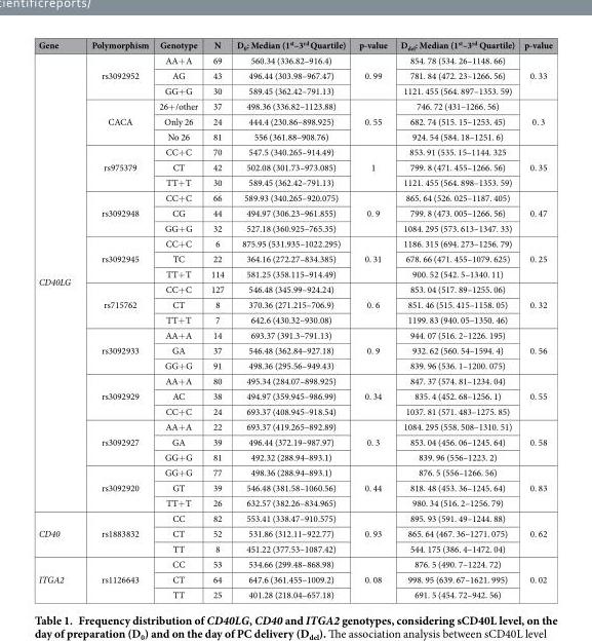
<table><thead><tr><td>Gene</td><td>Polymorphism</td><td>Genotype</td><td>N</td><td>D<sub>0</sub>: Median (1<sup>st</sup>–3<sup>rd</sup> Quartile)</td><td>p-value</td><td>D<sub>del</sub>: Median (1<sup>st</sup>–3<sup>rd</sup> Quartile)</td><td>p-value</td></tr></thead><tbody><tr><td rowspan="30">CD40LG</td><td rowspan="3">rs3092952</td><td>AA+ A</td><td>69</td><td>560.34 (336.82–916.4)</td><td rowspan="3">0. 99</td><td>854. 78 (534. 26–1148. 66)</td><td rowspan="3">0. 33</td></tr><tr><td>AG</td><td>43</td><td>496.44 (303.98–967.47)</td><td>781. 84 (472. 23–1266. 56)</td></tr><tr><td>GG+ G</td><td>30</td><td>589.45 (362.42–791.13)</td><td>1121. 455 (564. 897–1353. 59)</td></tr><tr><td rowspan="3">CACA</td><td>26+ /other</td><td>37</td><td>498.36 (336.82–1123.88)</td><td rowspan="3">0. 55</td><td>746. 72 (431–1266. 56)</td><td rowspan="3">0. 3</td></tr><tr><td>Only 26</td><td>24</td><td>444.4 (230.86–898.925)</td><td>682. 74 (515. 15–1253. 45)</td></tr><tr><td>No 26</td><td>81</td><td>556 (361.88–908.76)</td><td>924. 54 (584. 18–1251. 6)</td></tr><tr><td rowspan="3">rs975379</td><td>CC+ C</td><td>70</td><td>547.5 (340.265–914.49)</td><td rowspan="3">1</td><td>853. 91 (535. 15–1144. 325</td><td rowspan="3">0. 35</td></tr><tr><td>CT</td><td>42</td><td>502.08 (301.73–973.085)</td><td>799. 8 (471. 455–1266. 56)</td></tr><tr><td>TT+ T</td><td>30</td><td>589.45 (362.42–791.13)</td><td>1121. 455 (564. 898–1353. 59)</td></tr><tr><td rowspan="3">rs3092948</td><td>CC+ C</td><td>66</td><td>589.93 (340.265–920.075)</td><td rowspan="3">0. 9</td><td>865. 64 (526. 025–1187. 405)</td><td rowspan="3">0. 47</td></tr><tr><td>CG</td><td>44</td><td>494.97 (306.23–961.855)</td><td>799. 8 (473. 005–1266. 56)</td></tr><tr><td>GG+ G</td><td>32</td><td>527.18 (360.925–765.35)</td><td>1084. 295 (573. 613–1347. 33)</td></tr><tr><td rowspan="3">rs3092945</td><td>CC+ C</td><td>6</td><td>875.95 (531.935–1022.295)</td><td rowspan="3">0. 31</td><td>1186. 315 (694. 273–1256. 79)</td><td rowspan="3">0. 25</td></tr><tr><td>TC</td><td>22</td><td>364.16 (272.27–834.385)</td><td>678. 66 (471. 455–1079. 625)</td></tr><tr><td>TT+ T</td><td>114</td><td>581.25 (358.115–914.49)</td><td>900. 52 (542. 5–1340. 11)</td></tr><tr><td rowspan="3">rs715762</td><td>CC+ C</td><td>127</td><td>546.48 (345.99–924.24)</td><td rowspan="3">0. 6</td><td>853. 04 (517. 89–1255. 06)</td><td rowspan="3">0. 32</td></tr><tr><td>CT</td><td>8</td><td>370.36 (271.215–706.9)</td><td>851. 46 (515. 415–1158. 05)</td></tr><tr><td>TT+ T</td><td>7</td><td>642.6 (430.32–930.08)</td><td>1199. 83 (940. 05–1350. 46)</td></tr><tr><td rowspan="3">rs3092933</td><td>AA+ A</td><td>14</td><td>693.37 (391.3–791.13)</td><td rowspan="3">0. 9</td><td>944. 07 (516. 2–1226. 195)</td><td rowspan="3">0. 56</td></tr><tr><td>GA</td><td>37</td><td>546.48 (362.84–927.18)</td><td>932. 62 (560. 54–1594. 4)</td></tr><tr><td>GG+ G</td><td>91</td><td>498.36 (295.56–949.43)</td><td>839. 96 (536. 1–1200. 075)</td></tr><tr><td rowspan="3">rs3092929</td><td>AA+ A</td><td>80</td><td>495.34 (284.07–898.925)</td><td rowspan="3">0. 34</td><td>847. 37 (574. 81–1234. 04)</td><td rowspan="3">0. 55</td></tr><tr><td>AC</td><td>38</td><td>494.97 (359.945–986.99)</td><td>835. 4 (452. 68–1256. 1)</td></tr><tr><td>CC+ C</td><td>24</td><td>693.37 (408.945–918.54)</td><td>1037. 81 (571. 483–1275. 85)</td></tr><tr><td rowspan="3">rs3092927</td><td>AA+ A</td><td>22</td><td>693.37 (419.265–892.89)</td><td rowspan="3">0. 3</td><td>1084. 295 (558. 508–1310. 51)</td><td rowspan="3">0. 58</td></tr><tr><td>GA</td><td>39</td><td>496.44 (372.19–987.97)</td><td>853. 04 (456. 06–1245. 64)</td></tr><tr><td>GG+ G</td><td>81</td><td>492.32 (288.94–893.1)</td><td>839. 96 (556–1223. 2)</td></tr><tr><td rowspan="3">rs3092920</td><td>GG+ G</td><td>77</td><td>498.36 (288.94–893.1)</td><td rowspan="3">0. 44</td><td>876. 5 (556–1266. 56)</td><td rowspan="3">0. 83</td></tr><tr><td>GT</td><td>39</td><td>546.48 (381.58–1060.56)</td><td>818. 48 (453. 36–1245. 64)</td></tr><tr><td>TT+ T</td><td>26</td><td>632.57 (382.26–834.965)</td><td>980. 34 (516. 2–1256. 79)</td></tr><tr><td rowspan="3">CD40</td><td rowspan="3">rs1883832</td><td>CC</td><td>82</td><td>553.41 (338.47–910.575)</td><td rowspan="3">0. 93</td><td>895. 93 (591. 49–1244. 88)</td><td rowspan="3">0. 62</td></tr><tr><td>CT</td><td>52</td><td>531.86 (312.11–922.77)</td><td>865. 64 (467. 36–1271. 075)</td></tr><tr><td>TT</td><td>8</td><td>451.22 (377.53–1087.42)</td><td>544. 175 (386. 4–1472. 04)</td></tr><tr><td rowspan="3">ITGA2</td><td rowspan="3">rs1126643</td><td>CC</td><td>53</td><td>534.66 (299.48–868.98)</td><td rowspan="3">0. 08</td><td>876. 5 (490. 7–1224. 72)</td><td rowspan="3">0. 02</td></tr><tr><td>CT</td><td>64</td><td>647.6 (361.455–1009.2)</td><td>998. 95 (639. 67–1621. 995)</td></tr><tr><td>TT</td><td>25</td><td>401.28 (218.04–657.18)</td><td>691. 5 (454. 72–942. 56)</td></tr></tbody></table>